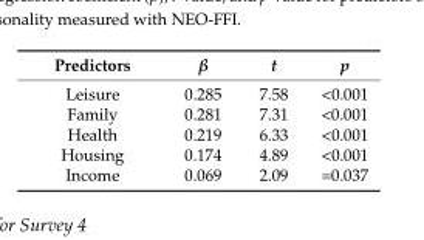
<table><thead><tr><td>Predictors</td><td>β</td><td>t</td><td>p</td></tr></thead><tbody><tr><td>Leisure</td><td>0.285</td><td>7.58</td><td>&lt;0.001</td></tr><tr><td>Family</td><td>0.281</td><td>7.31</td><td>&lt;0.001</td></tr><tr><td>Health</td><td>0.219</td><td>6.33</td><td>&lt;0.001</td></tr><tr><td>Housing</td><td>0.174</td><td>4.89</td><td>&lt;0.001</td></tr><tr><td>Income</td><td>0.069</td><td>2.09</td><td>=0.037</td></tr></tbody></table>